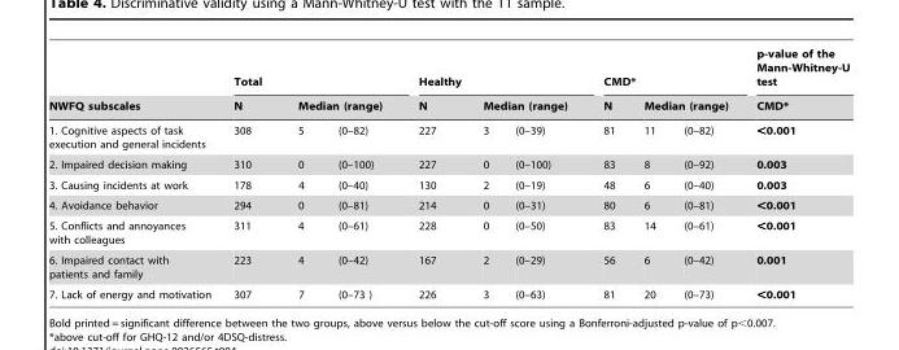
<table><thead><tr><td rowspan="3">NWFQ subscales 1. Cognitive aspects of task execution and general incidents</td><td colspan="3">Total</td><td colspan="3">Healthy</td><td colspan="3">CMD*</td><td rowspan="3">p-value of the Mann-Whitney-U test CMD* &lt;0.001</td></tr><tr><td rowspan="2">N 308</td><td colspan="2">Median (range)</td><td rowspan="2">N 227</td><td colspan="2">Median (range)</td><td rowspan="2">N 81</td><td colspan="2">Median (range)</td></tr><tr><td>5</td><td>(0–82)</td><td>3</td><td>(0–39)</td><td>11</td><td>(0–82)</td></tr></thead><tbody><tr><td>2. Impaired decision making</td><td>310</td><td>0</td><td>(0–100)</td><td>227</td><td>0</td><td>(0–100)</td><td>83</td><td>8</td><td>(0–92)</td><td>0.003</td></tr><tr><td>3. Causing incidents at work</td><td>178</td><td>4</td><td>(0–40)</td><td>130</td><td>2</td><td>(0–19)</td><td>48</td><td>6</td><td>(0–40)</td><td>0.003</td></tr><tr><td>4. Avoidance behavior</td><td>294</td><td>0</td><td>(0–81)</td><td>214</td><td>0</td><td>(0–31)</td><td>80</td><td>6</td><td>(0–81)</td><td>&lt;0.001</td></tr><tr><td>5. Conflicts and annoyances with colleagues</td><td>311</td><td>4</td><td>(0–61)</td><td>228</td><td>0</td><td>(0–50)</td><td>83</td><td>14</td><td>(0–61)</td><td>&lt;0.001</td></tr><tr><td>6. Impaired contact with patients and family</td><td>223</td><td>4</td><td>(0–42)</td><td>167</td><td>2</td><td>(0–29)</td><td>56</td><td>6</td><td>(0–42)</td><td>0.001</td></tr><tr><td>7. Lack of energy and motivation</td><td>307</td><td>7</td><td>(0–73 )</td><td>226</td><td>3</td><td>(0–63)</td><td>81</td><td>20</td><td>(0–73)</td><td>&lt;0.001</td></tr></tbody></table>